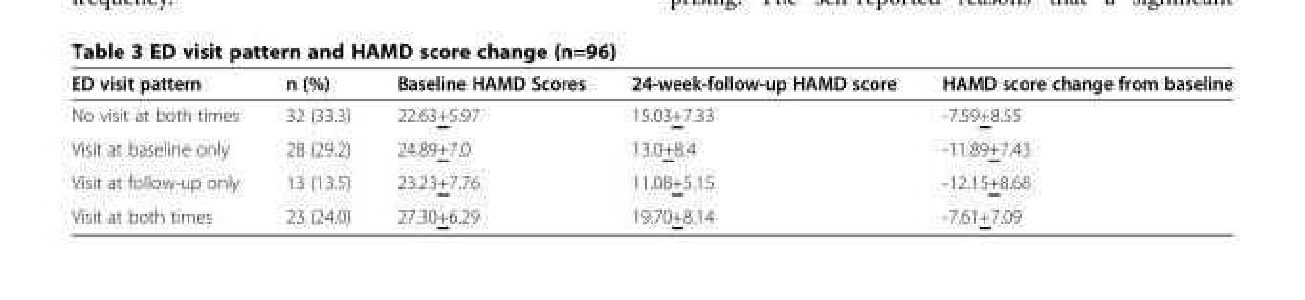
<table><thead><tr><td>ED visit pattern</td><td>n (%)</td><td>Baseline HAMD Scores</td><td>24-week-follow-up HAMD score</td><td>HAMD score change from baseline</td></tr></thead><tbody><tr><td>No visit at both times</td><td>32 (33.3)</td><td>22.63+5.97</td><td>15.03+7.33</td><td>-7.59+8.55</td></tr><tr><td>Visit at baseline only</td><td>28 (29.2)</td><td>24.89+7.0</td><td>13.0+8.4</td><td>-11.89+7.43</td></tr><tr><td>Visit at follow-up only</td><td>13 (13.5)</td><td>23.23+7.76</td><td>11.08+5.15</td><td>-12.15+8.68</td></tr><tr><td>Visit at both times</td><td>23 (24.0)</td><td>27.30+6.29</td><td>19.70+8.14</td><td>-7.61+7.09</td></tr></tbody></table>